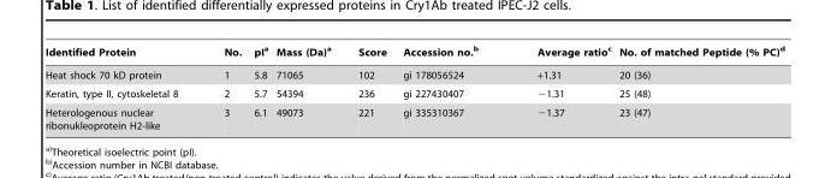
<table><thead><tr><td>Identified Protein</td><td>No.</td><td>pI<sup>a</sup></td><td>Mass (Da)<sup>a</sup></td><td>Score</td><td>Accession no.<sup>b</sup></td><td>Average ratio<sup>c</sup></td><td>No. of matched Peptide (% PC)<sup>d</sup></td></tr></thead><tbody><tr><td>Heat shock 70 kD protein</td><td>1</td><td>5.8</td><td>71065</td><td>102</td><td>gi 178056524</td><td>+1.31</td><td>20 (36)</td></tr><tr><td>Keratin, type II, cytoskeletal 8</td><td>2</td><td>5.7</td><td>54394</td><td>236</td><td>gi 227430407</td><td>−1.31</td><td>25 (48)</td></tr><tr><td>Heterologenous nuclear ribonukleoprotein H2-like</td><td>3</td><td>6.1</td><td>49073</td><td>221</td><td>gi 335310367</td><td>−1.37</td><td>23 (47)</td></tr></tbody></table>